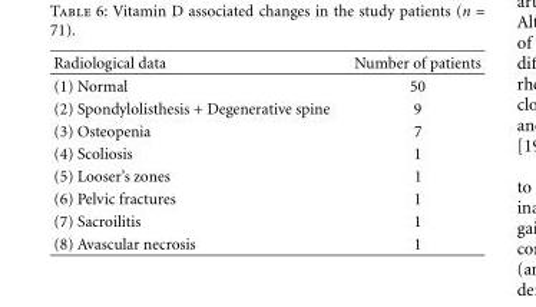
<table><thead><tr><td>Radiological data</td><td>Number of patients</td></tr></thead><tbody><tr><td>(1) Normal</td><td>50</td></tr><tr><td>(2) Spondylolisthesis + Degenerative spine</td><td>9</td></tr><tr><td>(3) Osteopenia</td><td>7</td></tr><tr><td>(4) Scoliosis</td><td>1</td></tr><tr><td>(5) Looser’s zones</td><td>1</td></tr><tr><td>(6) Pelvic fractures</td><td>1</td></tr><tr><td>(7) Sacroilitis</td><td>1</td></tr><tr><td>(8) Avascular necrosis</td><td>1</td></tr></tbody></table>